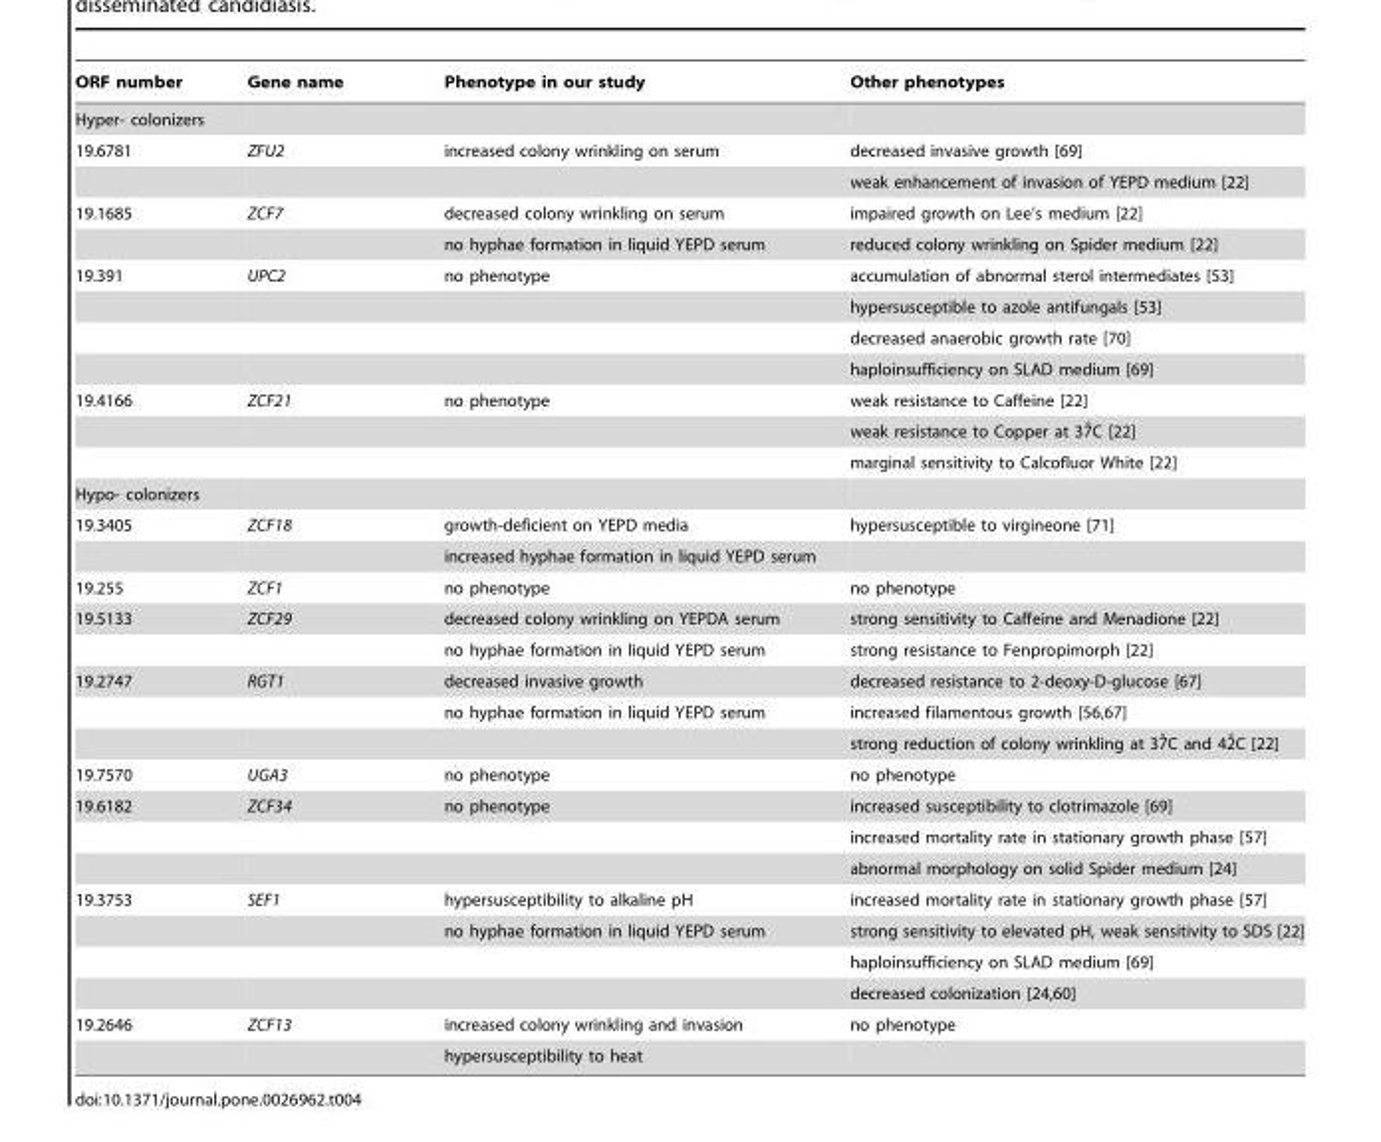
<table><thead><tr><td>ORF number</td><td>Gene name</td><td>Phenotype in our study</td><td>Other phenotypes</td></tr></thead><tbody><tr><td colspan="4">Hyper- colonizers</td></tr><tr><td rowspan="2">19.6781</td><td>ZFU2</td><td>increased colony wrinkling on serum</td><td>decreased invasive growth [69]</td></tr><tr><td></td><td></td><td>weak enhancement of invasion of YEPD medium [22]</td></tr><tr><td rowspan="2">19.1685</td><td>ZCF7</td><td>decreased colony wrinkling on serum</td><td>impaired growth on Lee’s medium [22]</td></tr><tr><td></td><td>no hyphae formation in liquid YEPD serum</td><td>reduced colony wrinkling on Spider medium [22]</td></tr><tr><td rowspan="4">19.391</td><td>UPC2</td><td>no phenotype</td><td>accumulation of abnormal sterol intermediates [53]</td></tr><tr><td></td><td></td><td>hypersusceptible to azole antifungals [53]</td></tr><tr><td></td><td></td><td>decreased anaerobic growth rate [70]</td></tr><tr><td></td><td></td><td>haploinsufficiency on SLAD medium [69]</td></tr><tr><td rowspan="3">19.4166</td><td>ZCF21</td><td>no phenotype</td><td>weak resistance to Caffeine [22]</td></tr><tr><td></td><td></td><td>weak resistance to Copper at 37˚C [22]</td></tr><tr><td></td><td></td><td>marginal sensitivity to Calcofluor White [22]</td></tr><tr><td colspan="4">Hypo- colonizers</td></tr><tr><td rowspan="2">19.3405</td><td>ZCF18</td><td>growth-deficient on YEPD media</td><td>hypersusceptible to virgineone [71]</td></tr><tr><td></td><td>increased hyphae formation in liquid YEPD serum</td><td></td></tr><tr><td>19.255</td><td>ZCF1</td><td>no phenotype</td><td>no phenotype</td></tr><tr><td rowspan="2">19.5133</td><td>ZCF29</td><td>decreased colony wrinkling on YEPDA serum</td><td>strong sensitivity to Caffeine and Menadione [22]</td></tr><tr><td></td><td>no hyphae formation in liquid YEPD serum</td><td>strong resistance to Fenpropimorph [22]</td></tr><tr><td rowspan="3">19.2747</td><td>RGT1</td><td>decreased invasive growth</td><td>decreased resistance to 2-deoxy-D-glucose [67]</td></tr><tr><td></td><td>no hyphae formation in liquid YEPD serum</td><td>increased filamentous growth [56,67]</td></tr><tr><td></td><td></td><td>strong reduction of colony wrinkling at 37˚C and 42˚C [22]</td></tr><tr><td>19.7570</td><td>UGA3</td><td>no phenotype</td><td>no phenotype</td></tr><tr><td rowspan="3">19.6182</td><td>ZCF34</td><td>no phenotype</td><td>increased susceptibility to clotrimazole [69]</td></tr><tr><td></td><td></td><td>increased mortality rate in stationary growth phase [57]</td></tr><tr><td></td><td></td><td>abnormal morphology on solid Spider medium [24]</td></tr><tr><td rowspan="4">19.3753</td><td>SEF1</td><td>hypersusceptibility to alkaline pH</td><td>increased mortality rate in stationary growth phase [57]</td></tr><tr><td></td><td>no hyphae formation in liquid YEPD serum</td><td>strong sensitivity to elevated pH, weak sensitivity to SDS [22]</td></tr><tr><td></td><td></td><td>haploinsufficiency on SLAD medium [69]</td></tr><tr><td></td><td></td><td>decreased colonization [24,60]</td></tr><tr><td rowspan="2">19.2646</td><td>ZCF13</td><td>increased colony wrinkling and invasion</td><td>no phenotype</td></tr><tr><td></td><td>hypersusceptibility to heat</td><td></td></tr></tbody></table>